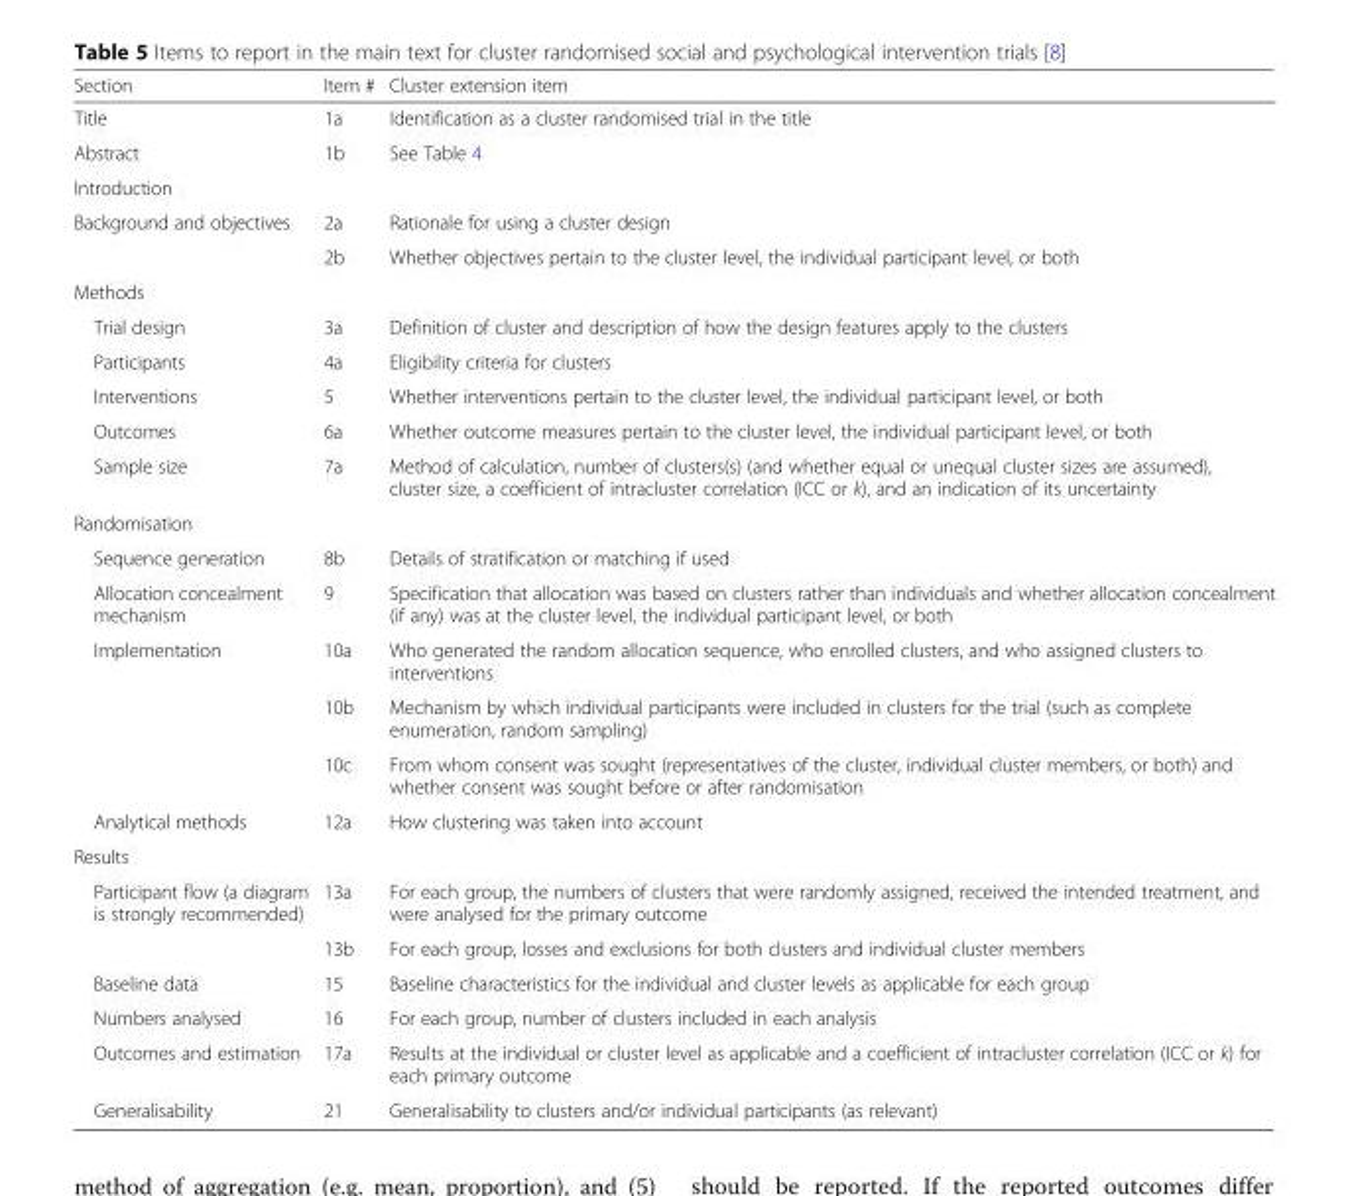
<table><thead><tr><td>Section</td><td>Item #</td><td>Cluster extension item</td></tr></thead><tbody><tr><td>Title</td><td>1a</td><td>Identification as a cluster randomised trial in the title</td></tr><tr><td>Abstract</td><td>1b</td><td>See Table 4</td></tr><tr><td colspan="3">Introduction</td></tr><tr><td rowspan="2">Background and objectives</td><td>2a</td><td>Rationale for using a cluster design</td></tr><tr><td>2b</td><td>Whether objectives pertain to the cluster level, the individual participant level, or both</td></tr><tr><td colspan="3">Methods</td></tr><tr><td>Trial design</td><td>3a</td><td>Definition of cluster and description of how the design features apply to the clusters</td></tr><tr><td>Participants</td><td>4a</td><td>Eligibility criteria for clusters</td></tr><tr><td>Interventions</td><td>5</td><td>Whether interventions pertain to the cluster level, the individual participant level, or both</td></tr><tr><td>Outcomes</td><td>6a</td><td>Whether outcome measures pertain to the cluster level, the individual participant level, or both</td></tr><tr><td>Sample size</td><td>7a</td><td>Method of calculation, number of clusters(s) (and whether equal or unequal cluster sizes are assumed), cluster size, a coefficient of intracluster correlation (ICC or k), and an indication of its uncertainty</td></tr><tr><td colspan="3">Randomisation</td></tr><tr><td>Sequence generation</td><td>8b</td><td>Details of stratification or matching if used</td></tr><tr><td>Allocation concealment mechanism</td><td>9</td><td>Specification that allocation was based on clusters rather than individuals and whether allocation concealment (if any) was at the cluster level, the individual participant level, or both</td></tr><tr><td rowspan="3">Implementation</td><td>10a</td><td>Who generated the random allocation sequence, who enrolled clusters, and who assigned clusters to interventions</td></tr><tr><td>10b</td><td>Mechanism by which individual participants were included in clusters for the trial (such as complete enumeration, random sampling)</td></tr><tr><td>10c</td><td>From whom consent was sought (representatives of the cluster, individual cluster members, or both) and whether consent was sought before or after randomisation</td></tr><tr><td>Analytical methods</td><td>12a</td><td>How clustering was taken into account</td></tr><tr><td colspan="3">Results</td></tr><tr><td rowspan="2">Participant flow (a diagram is strongly recommended)</td><td>13a</td><td>For each group, the numbers of clusters that were randomly assigned, received the intended treatment, and were analysed for the primary outcome</td></tr><tr><td>13b</td><td>For each group, losses and exclusions for both clusters and individual cluster members</td></tr><tr><td>Baseline data</td><td>15</td><td>Baseline characteristics for the individual and cluster levels as applicable for each group</td></tr><tr><td>Numbers analysed</td><td>16</td><td>For each group, number of clusters included in each analysis</td></tr><tr><td>Outcomes and estimation</td><td>17a</td><td>Results at the individual or cluster level as applicable and a coefficient of intracluster correlation (ICC or k) for each primary outcome</td></tr><tr><td>Generalisability</td><td>21</td><td>Generalisability to clusters and/or individual participants (as relevant)</td></tr></tbody></table>